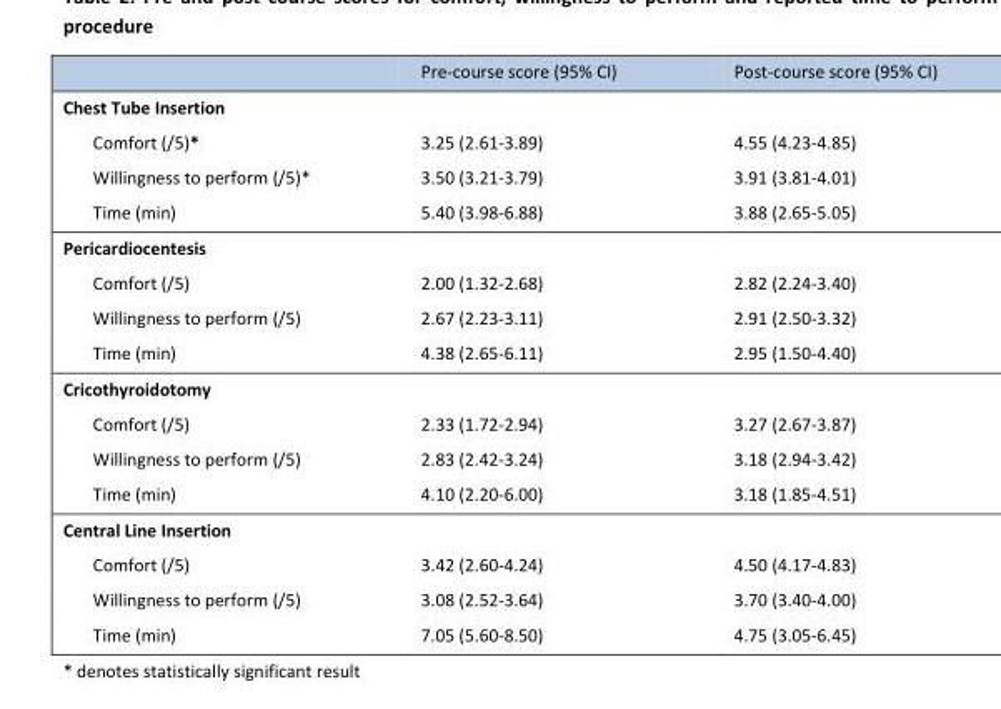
<table><thead><tr><td></td><td>Pre-course score (95% CI)</td><td>Post-course score (95% CI)</td></tr></thead><tbody><tr><td colspan="3">Chest Tube Insertion</td></tr><tr><td>Comfort (/5)*</td><td>3.25 (2.61-3.89)</td><td>4.55 (4.23-4.85)</td></tr><tr><td>Willingness to perform (/5)*</td><td>3.50 (3.21-3.79)</td><td>3.91 (3.81-4.01)</td></tr><tr><td>Time (min)</td><td>5.40 (3.98-6.88)</td><td>3.88 (2.65-5.05)</td></tr><tr><td colspan="3">Pericardiocentesis</td></tr><tr><td>Comfort (/5)</td><td>2.00 (1.32-2.68)</td><td>2.82 (2.24-3.40)</td></tr><tr><td>Willingness to perform (/5)</td><td>2.67 (2.23-3.11)</td><td>2.91 (2.50-3.32)</td></tr><tr><td>Time (min)</td><td>4.38 (2.65-6.11)</td><td>2.95 (1.50-4.40)</td></tr><tr><td colspan="3">Cricothyroidotomy</td></tr><tr><td>Comfort (/5)</td><td>2.33 (1.72-2.94)</td><td>3.27 (2.67-3.87)</td></tr><tr><td>Willingness to perform (/5)</td><td>2.83 (2.42-3.24)</td><td>3.18 (2.94-3.42)</td></tr><tr><td>Time (min)</td><td>4.10 (2.20-6.00)</td><td>3.18 (1.85-4.51)</td></tr><tr><td colspan="3">Central Line Insertion</td></tr><tr><td>Comfort (/5)</td><td>3.42 (2.60-4.24)</td><td>4.50 (4.17-4.83)</td></tr><tr><td>Willingness to perform (/5)</td><td>3.08 (2.52-3.64)</td><td>3.70 (3.40-4.00)</td></tr><tr><td>Time (min)</td><td>7.05 (5.60-8.50)</td><td>4.75 (3.05-6.45)</td></tr></tbody></table>